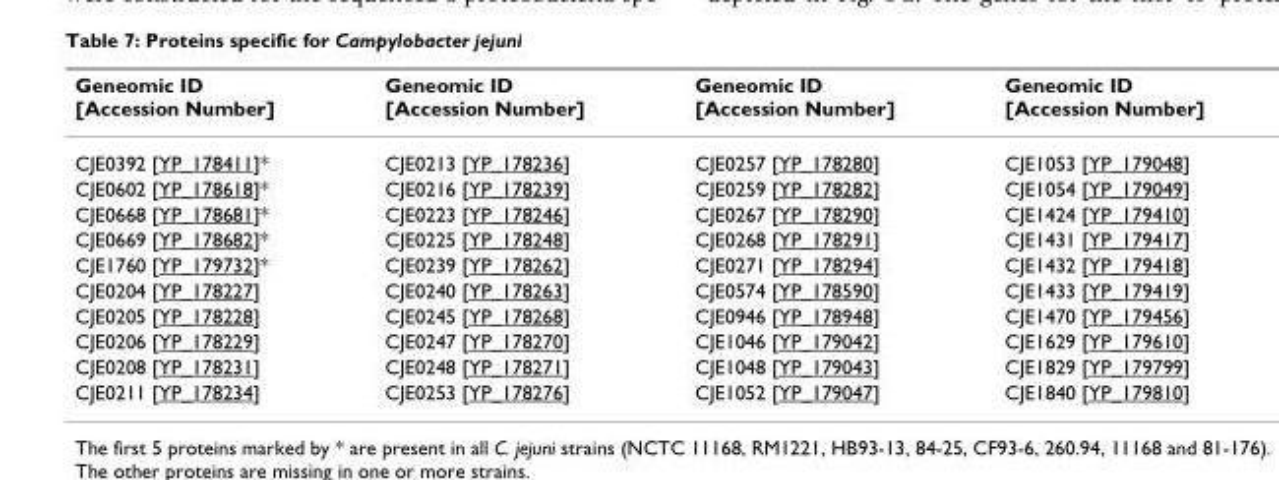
<table><thead><tr><td>Geneomic ID [Accession Number]</td><td>Geneomic ID [Accession Number]</td><td>Geneomic ID [Accession Number]</td><td>Geneomic ID [Accession Number]</td></tr></thead><tbody><tr><td>CJE0392 [YP_178411]*</td><td>CJE0213 [YP_178236]</td><td>CJE0257 [YP_178280]</td><td>CJE1053 [YP_179048]</td></tr><tr><td>CJE0602 [YP_178618]*</td><td>CJE0216 [YP_178239]</td><td>CJE0259 [YP_178282]</td><td>CJE1054 [YP_179049]</td></tr><tr><td>CJE0668 [YP_178681]*</td><td>CJE0223 [YP_178246]</td><td>CJE0267 [YP_178290]</td><td>CJE1424 [YP_179410]</td></tr><tr><td>CJE0669 [YP_178682]*</td><td>CJE0225 [YP_178248]</td><td>CJE0268 [YP_178291]</td><td>CJE1431 [YP_179417]</td></tr><tr><td>CJE1760 [YP_179732]*</td><td>CJE0239 [YP_178262]</td><td>CJE0271 [YP_178294]</td><td>CJE1432 [YP_179418]</td></tr><tr><td>CJE0204 [YP_178227]</td><td>CJE0240 [YP_178263]</td><td>CJE0574 [YP_178590]</td><td>CJE1433 [YP_179419]</td></tr><tr><td>CJE0205 [YP_178228]</td><td>CJE0245 [YP_178268]</td><td>CJE0946 [YP_178948]</td><td>CJE1470 [YP_179456]</td></tr><tr><td>CJE0206 [YP_178229]</td><td>CJE0247 [YP_178270]</td><td>CJE1046 [YP_179042]</td><td>CJE1629 [YP_179610]</td></tr><tr><td>CJE0208 [YP_178231]</td><td>CJE0248 [YP_178271]</td><td>CJE1048 [YP_179043]</td><td>CJE1829 [YP_179799]</td></tr><tr><td>CJE0211 [YP_178234]</td><td>CJE0253 [YP_178276]</td><td>CJE1052 [YP_179047]</td><td>CJE1840 [YP_179810]</td></tr></tbody></table>